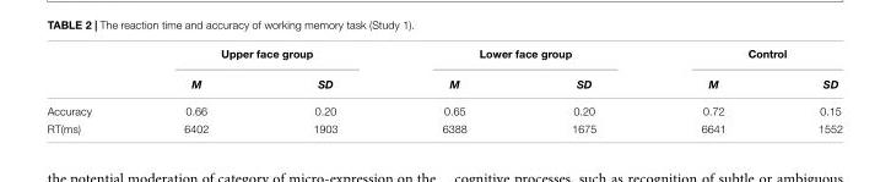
<table><thead><tr><td rowspan="2"></td><td colspan="2">Upper face group</td><td colspan="2">Lower face group</td><td colspan="2">Control</td></tr><tr><td>M</td><td>SD</td><td>M</td><td>SD</td><td>M</td><td>SD</td></tr></thead><tbody><tr><td>Accuracy</td><td>0.66</td><td>0.20</td><td>0.65</td><td>0.20</td><td>0.72</td><td>0.15</td></tr><tr><td>RT(ms)</td><td>6402</td><td>1903</td><td>6388</td><td>1675</td><td>6641</td><td>1552</td></tr></tbody></table>